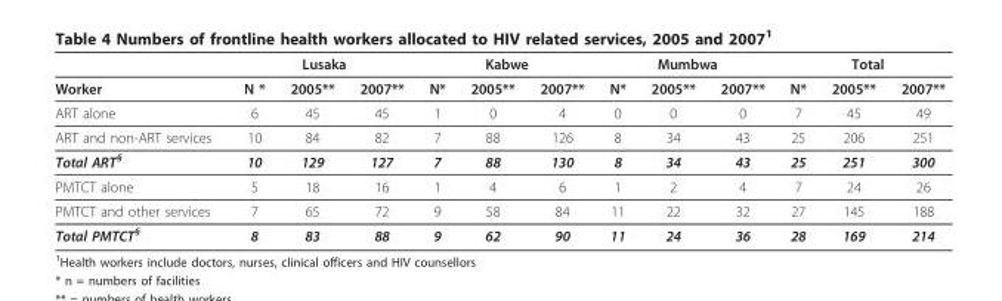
<table><thead><tr><td rowspan="2">Worker</td><td colspan="3">Lusaka</td><td colspan="3">Kabwe</td><td colspan="3">Mumbwa</td><td colspan="3">Total</td></tr><tr><td>N *</td><td>2005**</td><td>2007**</td><td>N*</td><td>2005**</td><td>2007**</td><td>N*</td><td>2005**</td><td>2007**</td><td>N*</td><td>2005**</td><td>2007**</td></tr></thead><tbody><tr><td>ART alone</td><td>6</td><td>45</td><td>45</td><td>1</td><td>0</td><td>4</td><td>0</td><td>0</td><td>0</td><td>7</td><td>45</td><td>49</td></tr><tr><td>ART and non-ART services</td><td>10</td><td>84</td><td>82</td><td>7</td><td>88</td><td>126</td><td>8</td><td>34</td><td>43</td><td>25</td><td>206</td><td>251</td></tr><tr><td>Total ART<sup>§</sup></td><td>10</td><td>129</td><td>127</td><td>7</td><td>88</td><td>130</td><td>8</td><td>34</td><td>43</td><td>25</td><td>251</td><td>300</td></tr><tr><td>PMTCT alone</td><td>5</td><td>18</td><td>16</td><td>1</td><td>4</td><td>6</td><td>1</td><td>2</td><td>4</td><td>7</td><td>24</td><td>26</td></tr><tr><td>PMTCT and other services</td><td>7</td><td>65</td><td>72</td><td>9</td><td>58</td><td>84</td><td>11</td><td>22</td><td>32</td><td>27</td><td>145</td><td>188</td></tr><tr><td>Total PMTCT<sup>§</sup></td><td>8</td><td>83</td><td>88</td><td>9</td><td>62</td><td>90</td><td>11</td><td>24</td><td>36</td><td>28</td><td>169</td><td>214</td></tr></tbody></table>